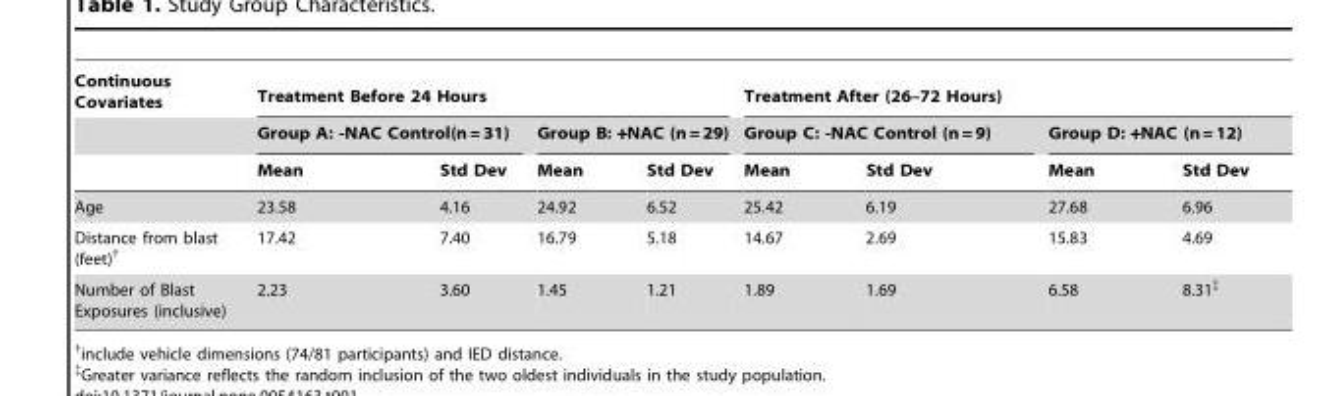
<table><thead><tr><td rowspan="3">Continuous Covariates</td><td colspan="4">Treatment Before 24 Hours</td><td colspan="4">Treatment After (26–72 Hours)</td></tr><tr><td colspan="2">Group A: -NAC Control(n = 31)</td><td colspan="2">Group B: +NAC (n = 29)</td><td colspan="2">Group C: -NAC Control (n = 9)</td><td colspan="2">Group D: +NAC (n = 12)</td></tr><tr><td>Mean</td><td>Std Dev</td><td>Mean</td><td>Std Dev</td><td>Mean</td><td>Std Dev</td><td>Mean</td><td>Std Dev</td></tr></thead><tbody><tr><td>Age</td><td>23.58</td><td>4.16</td><td>24.92</td><td>6.52</td><td>25.42</td><td>6.19</td><td>27.68</td><td>6.96</td></tr><tr><td>Distance from blast (feet)†</td><td>17.42</td><td>7.40</td><td>16.79</td><td>5.18</td><td>14.67</td><td>2.69</td><td>15.83</td><td>4.69</td></tr><tr><td>Number of Blast Exposures (inclusive)</td><td>2.23</td><td>3.60</td><td>1.45</td><td>1.21</td><td>1.89</td><td>1.69</td><td>6.58</td><td>8.31‡</td></tr></tbody></table>